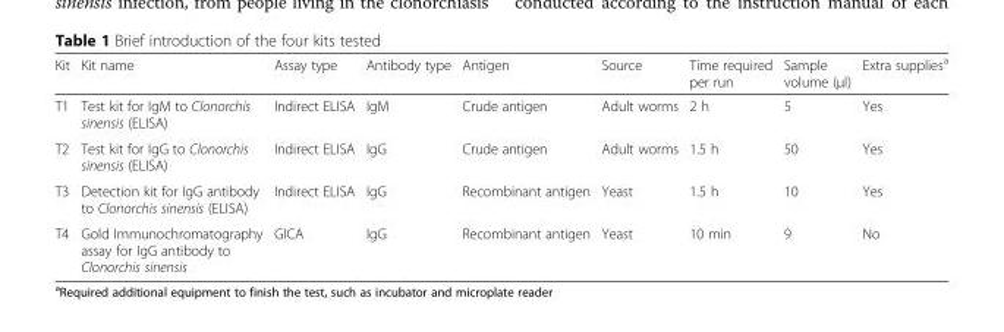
<table><thead><tr><td>Kit</td><td>Kit name</td><td>Assay type</td><td>Antibody type</td><td>Antigen</td><td>Source</td><td>Time required per run</td><td>Sample volume (μl)</td><td>Extra supplies<sup>a</sup></td></tr></thead><tbody><tr><td>T1</td><td>Test kit for IgM to Clonorchis sinensis (ELISA)</td><td>Indirect ELISA</td><td>IgM</td><td>Crude antigen</td><td>Adult worms</td><td>2 h</td><td>5</td><td>Yes</td></tr><tr><td>T2</td><td>Test kit for IgG to Clonorchis sinensis (ELISA)</td><td>Indirect ELISA</td><td>IgG</td><td>Crude antigen</td><td>Adult worms</td><td>1.5 h</td><td>50</td><td>Yes</td></tr><tr><td>T3</td><td>Detection kit for IgG antibody to Clonorchis sinensis (ELISA)</td><td>Indirect ELISA</td><td>IgG</td><td>Recombinant antigen</td><td>Yeast</td><td>1.5 h</td><td>10</td><td>Yes</td></tr><tr><td>T4</td><td>Gold Immunochromatography assay for IgG antibody to Clonorchis sinensis</td><td>GICA</td><td>IgG</td><td>Recombinant antigen</td><td>Yeast</td><td>10 min</td><td>9</td><td>No</td></tr></tbody></table>